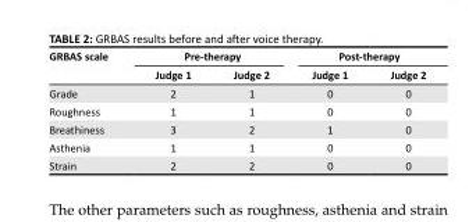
<table><thead><tr><td rowspan="2">GRBAS scale</td><td colspan="2">Pre-therapy</td><td colspan="2">Post-therapy</td></tr><tr><td>Judge 1</td><td>Judge 2</td><td>Judge 1</td><td>Judge 2</td></tr></thead><tbody><tr><td>Grade</td><td>2</td><td>1</td><td>0</td><td>0</td></tr><tr><td>Roughness</td><td>1</td><td>1</td><td>0</td><td>0</td></tr><tr><td>Breathiness</td><td>3</td><td>2</td><td>1</td><td>0</td></tr><tr><td>Asthenia</td><td>1</td><td>1</td><td>0</td><td>0</td></tr><tr><td>Strain</td><td>2</td><td>2</td><td>0</td><td>0</td></tr></tbody></table>